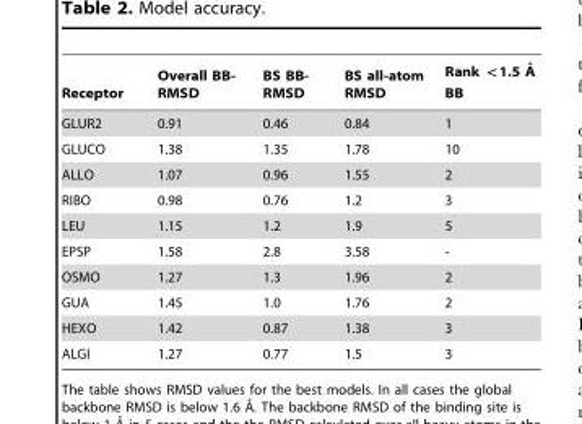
<table><thead><tr><td>Receptor</td><td>Overall BB- RMSD</td><td>BS BB- RMSD</td><td>BS all-atom RMSD</td><td>Rank v v1.5 BB</td></tr></thead><tbody><tr><td>GLUR2</td><td>0.91</td><td>0.46</td><td>0.84</td><td>1</td></tr><tr><td>GLUCO</td><td>1.38</td><td>1.35</td><td>1.78</td><td>10</td></tr><tr><td>ALLO</td><td>1.07</td><td>0.96</td><td>1.55</td><td>2</td></tr><tr><td>RIBO</td><td>0.98</td><td>0.76</td><td>1.2</td><td>3</td></tr><tr><td>LEU</td><td>1.15</td><td>1.2</td><td>1.9</td><td>5</td></tr><tr><td>EPSP</td><td>1.58</td><td>2.8</td><td>3.58</td><td>-</td></tr><tr><td>OSMO</td><td>1.27</td><td>1.3</td><td>1.96</td><td>2</td></tr><tr><td>GUA</td><td>1.45</td><td>1.0</td><td>1.76</td><td>2</td></tr><tr><td>HEXO</td><td>1.42</td><td>0.87</td><td>1.38</td><td>3</td></tr><tr><td>ALGI</td><td>1.27</td><td>0.77</td><td>1.5</td><td>3</td></tr></tbody></table>